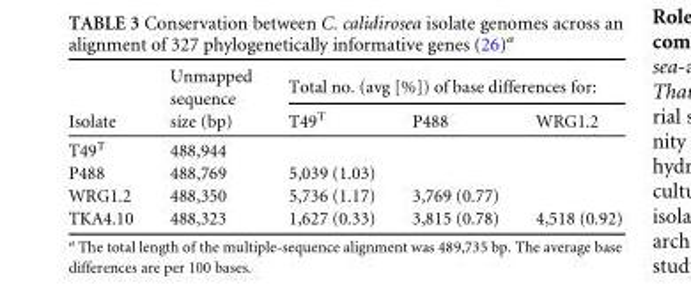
<table><thead><tr><td rowspan="2">Isolate</td><td rowspan="2">Unmapped sequence size (bp)</td><td colspan="3">Total no. (avg [%]) of base differences for:</td></tr><tr><td>T49<sup>T</sup></td><td>P488</td><td>WRG1.2</td></tr></thead><tbody><tr><td>T49<sup>T</sup></td><td>488,944</td><td></td><td></td><td></td></tr><tr><td>P488</td><td>488,769</td><td>5,039 (1.03)</td><td></td><td></td></tr><tr><td>WRG1.2</td><td>488,350</td><td>5,736 (1.17)</td><td>3,769 (0.77)</td><td></td></tr><tr><td>TKA4.10</td><td>488,323</td><td>1,627 (0.33)</td><td>3,815 (0.78)</td><td>4,518 (0.92)</td></tr></tbody></table>